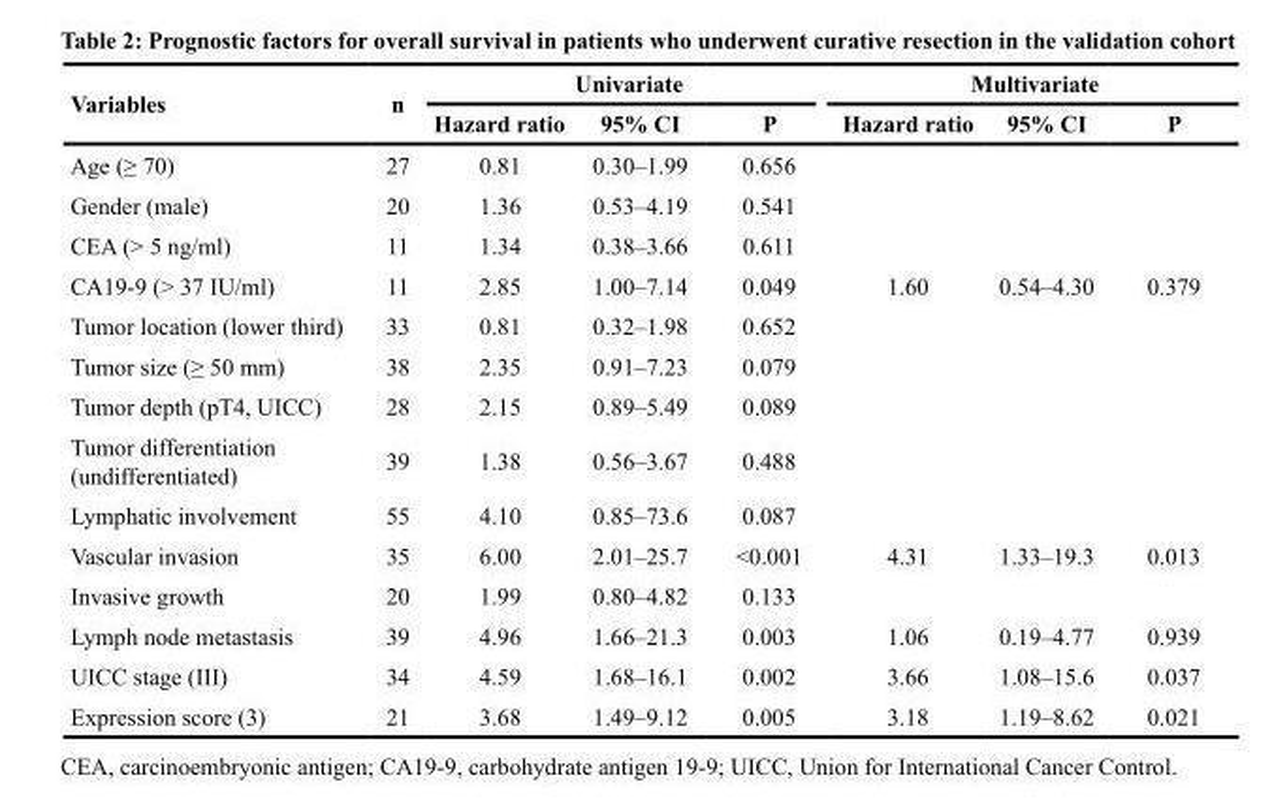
<table><thead><tr><td rowspan="2">Variables</td><td rowspan="2">n</td><td colspan="3">Univariate</td><td colspan="3">Multivariate</td></tr><tr><td>Hazard ratio</td><td>95% CI</td><td>P</td><td>Hazard ratio</td><td>95% CI</td><td>P</td></tr></thead><tbody><tr><td>Age (≥ 70)</td><td>27</td><td>0.81</td><td>0.30–1.99</td><td>0.656</td><td></td><td></td><td></td></tr><tr><td>Gender (male)</td><td>20</td><td>1.36</td><td>0.53–4.19</td><td>0.541</td><td></td><td></td><td></td></tr><tr><td>CEA (&gt; 5 ng/ml)</td><td>11</td><td>1.34</td><td>0.38–3.66</td><td>0.611</td><td></td><td></td><td></td></tr><tr><td>CA19-9 (&gt; 37 IU/ml)</td><td>11</td><td>2.85</td><td>1.00–7.14</td><td>0.049</td><td>1.60</td><td>0.54–4.30</td><td>0.379</td></tr><tr><td>Tumor location (lower third)</td><td>33</td><td>0.81</td><td>0.32–1.98</td><td>0.652</td><td></td><td></td><td></td></tr><tr><td>Tumor size (≥ 50 mm)</td><td>38</td><td>2.35</td><td>0.91–7.23</td><td>0.079</td><td></td><td></td><td></td></tr><tr><td>Tumor depth (pT4, UICC)</td><td>28</td><td>2.15</td><td>0.89–5.49</td><td>0.089</td><td></td><td></td><td></td></tr><tr><td>Tumor differentiation (undifferentiated)</td><td>39</td><td>1.38</td><td>0.56–3.67</td><td>0.488</td><td></td><td></td><td></td></tr><tr><td>Lymphatic involvement</td><td>55</td><td>4.10</td><td>0.85–73.6</td><td>0.087</td><td></td><td></td><td></td></tr><tr><td>Vascular invasion</td><td>35</td><td>6.00</td><td>2.01–25.7</td><td>&lt;0.001</td><td>4.31</td><td>1.33–19.3</td><td>0.013</td></tr><tr><td>Invasive growth</td><td>20</td><td>1.99</td><td>0.80–4.82</td><td>0.133</td><td></td><td></td><td></td></tr><tr><td>Lymph node metastasis</td><td>39</td><td>4.96</td><td>1.66–21.3</td><td>0.003</td><td>1.06</td><td>0.19–4.77</td><td>0.939</td></tr><tr><td>UICC stage (III)</td><td>34</td><td>4.59</td><td>1.68–16.1</td><td>0.002</td><td>3.66</td><td>1.08–15.6</td><td>0.037</td></tr><tr><td>Expression score (3)</td><td>21</td><td>3.68</td><td>1.49–9.12</td><td>0.005</td><td>3.18</td><td>1.19–8.62</td><td>0.021</td></tr></tbody></table>